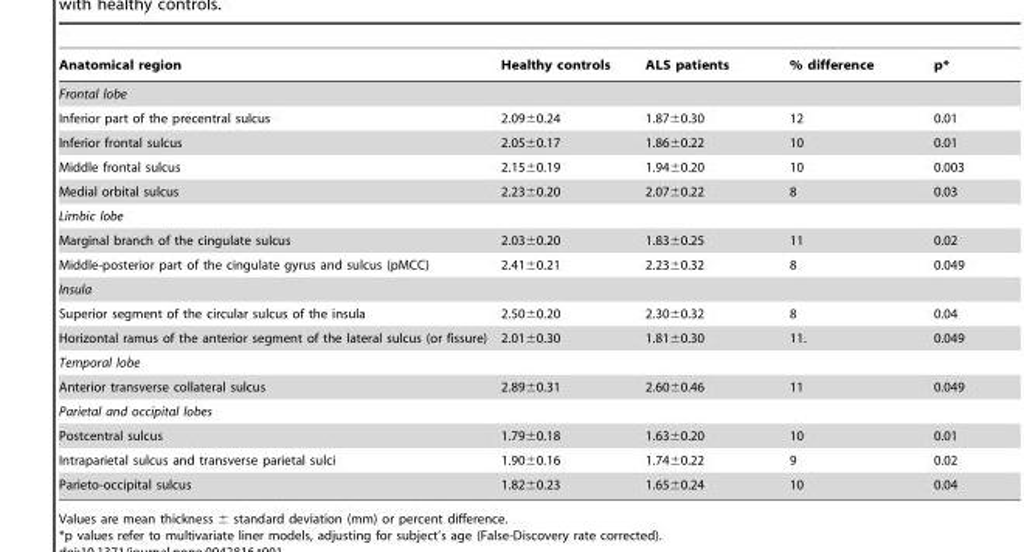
<table><thead><tr><td>Anatomical region</td><td>Healthy controls</td><td>ALS patients</td><td>% difference</td><td>p*</td></tr></thead><tbody><tr><td colspan="5">Frontal lobe</td></tr><tr><td>Inferior part of the precentral sulcus</td><td>2.09±0.24</td><td>1.87±0.30</td><td>12</td><td>0.01</td></tr><tr><td>Inferior frontal sulcus</td><td>2.05±0.17</td><td>1.86±0.22</td><td>10</td><td>0.01</td></tr><tr><td>Middle frontal sulcus</td><td>2.15±0.19</td><td>1.94±0.20</td><td>10</td><td>0.003</td></tr><tr><td>Medial orbital sulcus</td><td>2.23±0.20</td><td>2.07±0.22</td><td>8</td><td>0.03</td></tr><tr><td colspan="5">Limbic lobe</td></tr><tr><td>Marginal branch of the cingulate sulcus</td><td>2.03±0.20</td><td>1.83±0.25</td><td>11</td><td>0.02</td></tr><tr><td>Middle-posterior part of the cingulate gyrus and sulcus (pMCC)</td><td>2.41±0.21</td><td>2.23±0.32</td><td>8</td><td>0.049</td></tr><tr><td colspan="5">Insula</td></tr><tr><td>Superior segment of the circular sulcus of the insula</td><td>2.50±0.20</td><td>2.30±0.32</td><td>8</td><td>0.04</td></tr><tr><td>Horizontal ramus of the anterior segment of the lateral sulcus (or fissure)</td><td>2.01±0.30</td><td>1.81±0.30</td><td>11.</td><td>0.049</td></tr><tr><td colspan="5">Temporal lobe</td></tr><tr><td>Anterior transverse collateral sulcus</td><td>2.89±0.31</td><td>2.60±0.46</td><td>11</td><td>0.049</td></tr><tr><td colspan="5">Parietal and occipital lobes</td></tr><tr><td>Postcentral sulcus</td><td>1.79±0.18</td><td>1.63±0.20</td><td>10</td><td>0.01</td></tr><tr><td>Intraparietal sulcus and transverse parietal sulci</td><td>1.90±0.16</td><td>1.74±0.22</td><td>9</td><td>0.02</td></tr><tr><td>Parieto-occipital sulcus</td><td>1.82±0.23</td><td>1.65±0.24</td><td>10</td><td>0.04</td></tr></tbody></table>